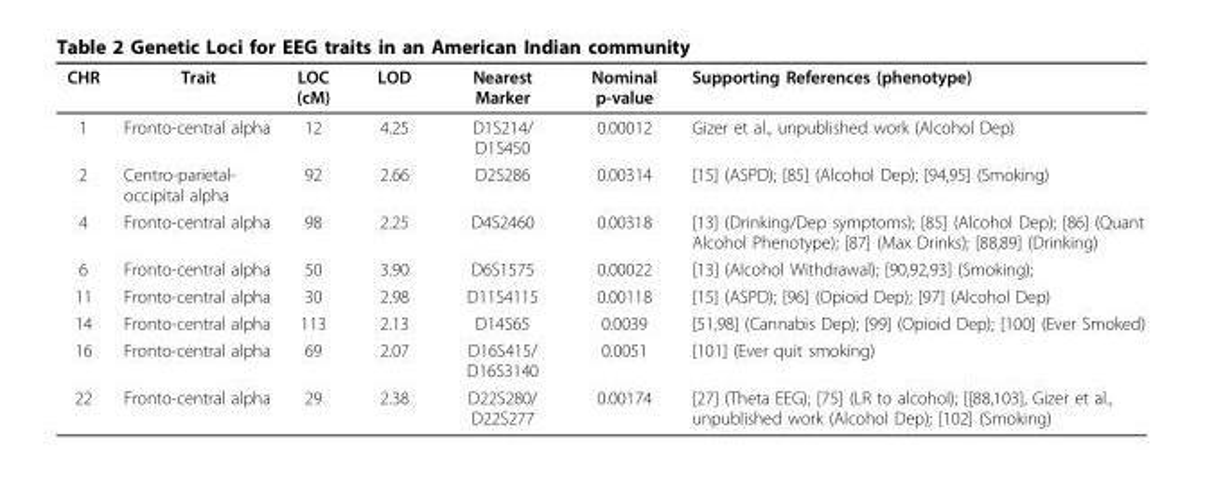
<table><thead><tr><td>CHR</td><td>Trait</td><td>LOC (cM)</td><td>LOD</td><td>Nearest Marker</td><td>Nominal p-value</td><td>Supporting References (phenotype)</td></tr></thead><tbody><tr><td>1</td><td>Fronto-central alpha</td><td>12</td><td>4.25</td><td>D1S214/ D1S450</td><td>0.00012</td><td>Gizer et al., unpublished work (Alcohol Dep)</td></tr><tr><td>2</td><td>Centro-parietal- occipital alpha</td><td>92</td><td>2.66</td><td>D2S286</td><td>0.00314</td><td>[15] (ASPD); [85] (Alcohol Dep); [94,95] (Smoking)</td></tr><tr><td>4</td><td>Fronto-central alpha</td><td>98</td><td>2.25</td><td>D4S2460</td><td>0.00318</td><td>[13] (Drinking/Dep symptoms); [85] (Alcohol Dep); [86] (Quant Alcohol Phenotype); [87] (Max Drinks); [88,89] (Drinking)</td></tr><tr><td>6</td><td>Fronto-central alpha</td><td>50</td><td>3.90</td><td>D6S1575</td><td>0.00022</td><td>[13] (Alcohol Withdrawal); [90,92,93] (Smoking);</td></tr><tr><td>11</td><td>Fronto-central alpha</td><td>30</td><td>2.98</td><td>D11S4115</td><td>0.00118</td><td>[15] (ASPD); [96] (Opioid Dep); [97] (Alcohol Dep)</td></tr><tr><td>14</td><td>Fronto-central alpha</td><td>113</td><td>2.13</td><td>D14S65</td><td>0.0039</td><td>[51,98] (Cannabis Dep); [99] (Opioid Dep); [100] (Ever Smoked)</td></tr><tr><td>16</td><td>Fronto-central alpha</td><td>69</td><td>2.07</td><td>D16S415/ D16S3140</td><td>0.0051</td><td>[101] (Ever quit smoking)</td></tr><tr><td>22</td><td>Fronto-central alpha</td><td>29</td><td>2.38</td><td>D22S280/ D22S277</td><td>0.00174</td><td>[27] (Theta EEG); [75] (LR to alcohol); [[88,103], Gizer et al., unpublished work (Alcohol Dep); [102] (Smoking)</td></tr></tbody></table>